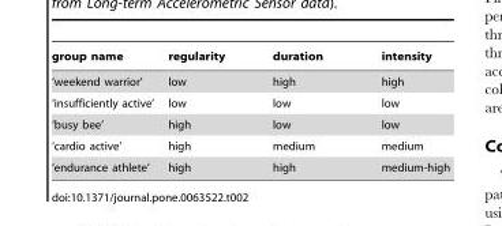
<table><thead><tr><td>group name</td><td>regularity</td><td>duration</td><td>intensity</td></tr></thead><tbody><tr><td>‘weekend warrior’</td><td>low</td><td>high</td><td>high</td></tr><tr><td>‘insufficiently active’</td><td>low</td><td>low</td><td>low</td></tr><tr><td>‘busy bee’</td><td>high</td><td>low</td><td>low</td></tr><tr><td>‘cardio active’</td><td>high</td><td>medium</td><td>medium</td></tr><tr><td>‘endurance athlete’</td><td>high</td><td>high</td><td>medium-high</td></tr></tbody></table>